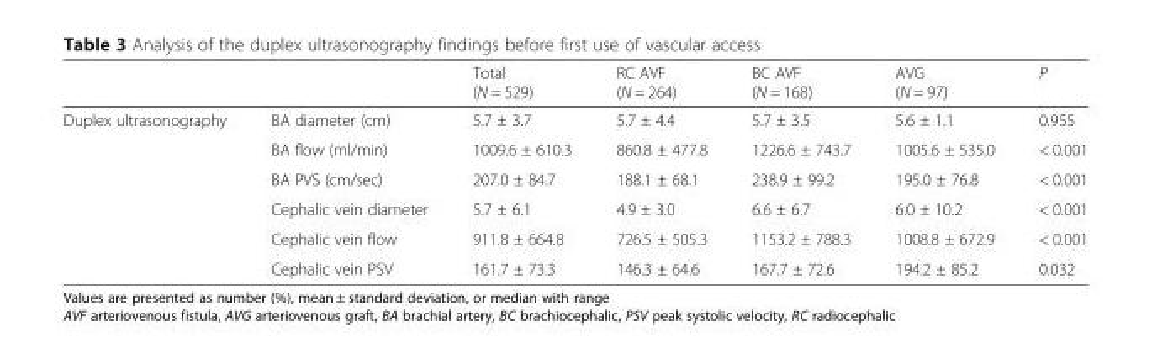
<table><thead><tr><td></td><td></td><td>Total (N = 529)</td><td>RC AVF (N = 264)</td><td>BC AVF (N = 168)</td><td>AVG (N = 97)</td><td>P</td></tr></thead><tbody><tr><td rowspan="6">Duplex ultrasonography</td><td>BA diameter (cm)</td><td>5.7 ± 3.7</td><td>5.7 ± 4.4</td><td>5.7 ± 3.5</td><td>5.6 ± 1.1</td><td>0.955</td></tr><tr><td>BA flow (ml/min)</td><td>1009.6 ± 610.3</td><td>860.8 ± 477.8</td><td>1226.6 ± 743.7</td><td>1005.6 ± 535.0</td><td>&lt; 0.001</td></tr><tr><td>BA PVS (cm/sec)</td><td>207.0 ± 84.7</td><td>188.1 ± 68.1</td><td>238.9 ± 99.2</td><td>195.0 ± 76.8</td><td>&lt; 0.001</td></tr><tr><td>Cephalic vein diameter</td><td>5.7 ± 6.1</td><td>4.9 ± 3.0</td><td>6.6 ± 6.7</td><td>6.0 ± 10.2</td><td>&lt; 0.001</td></tr><tr><td>Cephalic vein flow</td><td>911.8 ± 664.8</td><td>726.5 ± 505.3</td><td>1153.2 ± 788.3</td><td>1008.8 ± 672.9</td><td>&lt; 0.001</td></tr><tr><td>Cephalic vein PSV</td><td>161.7 ± 73.3</td><td>146.3 ± 64.6</td><td>167.7 ± 72.6</td><td>194.2 ± 85.2</td><td>0.032</td></tr></tbody></table>